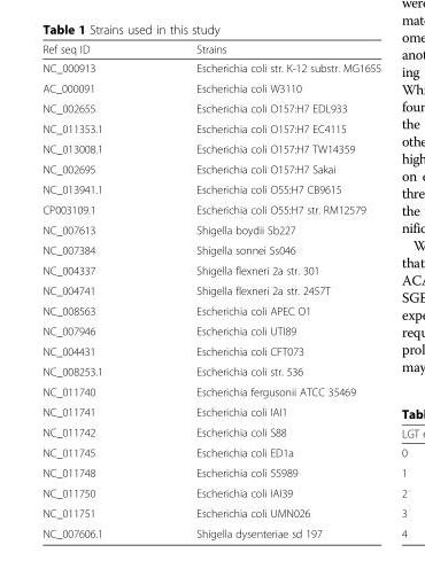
<table><thead><tr><td>Ref seq ID</td><td>Strains</td></tr></thead><tbody><tr><td>NC_000913</td><td>Escherichia coli str. K-12 substr. MG1655</td></tr><tr><td>AC_000091</td><td>Escherichia coli W3110</td></tr><tr><td>NC_002655</td><td>Escherichia coli O157:H7 EDL933</td></tr><tr><td>NC_011353.1</td><td>Escherichia coli O157:H7 EC4115</td></tr><tr><td>NC_013008.1</td><td>Escherichia coli O157:H7 TW14359</td></tr><tr><td>NC_002695</td><td>Escherichia coli O157:H7 Sakai</td></tr><tr><td>NC_013941.1</td><td>Escherichia coli O55:H7 CB9615</td></tr><tr><td>CP003109.1</td><td>Escherichia coli O55:H7 str. RM12579</td></tr><tr><td>NC_007613</td><td>Shigella boydii Sb227</td></tr><tr><td>NC_007384</td><td>Shigella sonnei Ss046</td></tr><tr><td>NC_004337</td><td>Shigella flexneri 2a str. 301</td></tr><tr><td>NC_004741</td><td>Shigella flexneri 2a str. 2457T</td></tr><tr><td>NC_008563</td><td>Escherichia coli APEC O1</td></tr><tr><td>NC_007946</td><td>Escherichia coli UTI89</td></tr><tr><td>NC_004431</td><td>Escherichia coli CFT073</td></tr><tr><td>NC_008253.1</td><td>Escherichia coli str. 536</td></tr><tr><td>NC_011740</td><td>Escherichia fergusonii ATCC 35469</td></tr><tr><td>NC_011741</td><td>Escherichia coli IAI1</td></tr><tr><td>NC_011742</td><td>Escherichia coli S88</td></tr><tr><td>NC_011745</td><td>Escherichia coli ED1a</td></tr><tr><td>NC_011748</td><td>Escherichia coli 55989</td></tr><tr><td>NC_011750</td><td>Escherichia coli IAI39</td></tr><tr><td>NC_011751</td><td>Escherichia coli UMN026</td></tr><tr><td>NC_007606.1</td><td>Shigella dysenteriae sd 197</td></tr></tbody></table>